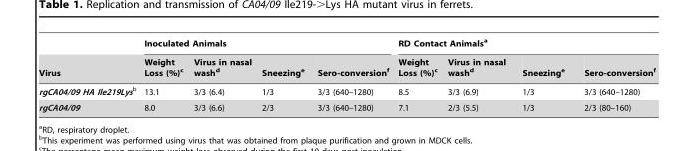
<table><thead><tr><td rowspan="2">Virus</td><td colspan="4">Inoculated Animals</td><td colspan="4">RD Contact Animals<sup>a</sup></td></tr><tr><td>Weight Loss (%)<sup>c</sup></td><td>Virus in nasal wash<sup>d</sup></td><td>Sneezing<sup>e</sup></td><td>Sero-conversion<sup>f</sup></td><td>Weight Loss (%)<sup>c</sup></td><td>Virus in nasal wash<sup>d</sup></td><td>Sneezing<sup>e</sup></td><td>Sero-conversion<sup>f</sup></td></tr></thead><tbody><tr><td>rgCA04/09 HA Ile219Lysb</td><td>13.1</td><td>3/3 (6.4)</td><td>1/3</td><td>3/3 (640–1280)</td><td>8.5</td><td>3/3 (6.9)</td><td>1/3</td><td>3/3 (640–1280)</td></tr><tr><td>rgCA04/09</td><td>8.0</td><td>3/3 (6.6)</td><td>2/3</td><td>3/3 (640–1280)</td><td>7.1</td><td>2/3 (5.5)</td><td>1/3</td><td>2/3 (80–160)</td></tr></tbody></table>